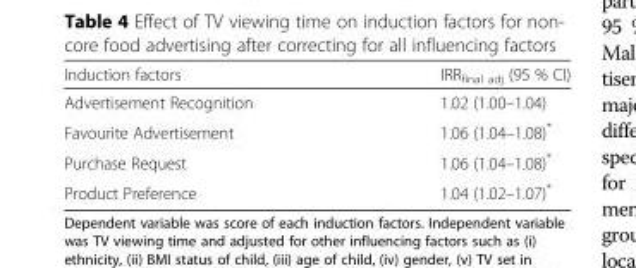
<table><thead><tr><td>Induction factors</td><td>IRR<sub>final adj</sub> (95 % CI)</td></tr></thead><tbody><tr><td>Advertisement Recognition</td><td>1.02 (1.00–1.04)</td></tr><tr><td>Favourite Advertisement</td><td>1.06 (1.04–1.08)*</td></tr><tr><td>Purchase Request</td><td>1.06 (1.04–1.08)*</td></tr><tr><td>Product Preference</td><td>1.04 (1.02–1.07)*</td></tr></tbody></table>